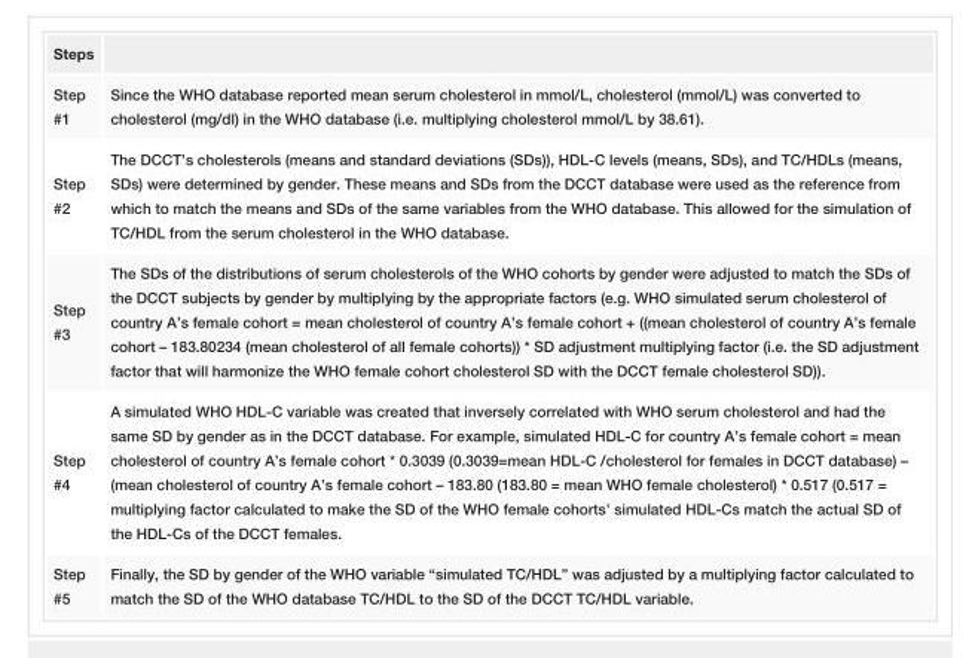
<table><tbody><tr><td colspan="2">Steps</td></tr><tr><td>Step #1</td><td>Since the WHO database reported mean serum cholesterol in mmol/L, cholesterol (mmol/L) was converted to cholesterol (mg/dl) in the WHO database (i.e. multiplying cholesterol mmol/L by 38.61).</td></tr><tr><td>Step #2</td><td>The DCCT’s cholesterols (means and standard deviations (SDs)), HDL-C levels (means, SDs), and TC/HDLs (means, SDs) were determined by gender. These means and SDs from the DCCT database were used as the reference from which to match the means and SDs of the same variables from the WHO database. This allowed for the simulation of TC/HDL from the serum cholesterol in the WHO database.</td></tr><tr><td>Step #3</td><td>The SDs of the distributions of serum cholesterols of the WHO cohorts by gender were adjusted to match the SDs of the DCCT subjects by gender by multiplying by the appropriate factors (e.g. WHO simulated serum cholesterol of country A’s female cohort = mean cholesterol of country A’s female cohort + ((mean cholesterol of country A’s female cohort – 183.80234 (mean cholesterol of all female cohorts)) * SD adjustment multiplying factor (i.e. the SD adjustment factor that will harmonize the WHO female cohort cholesterol SD with the DCCT female cholesterol SD)).</td></tr><tr><td>Step #4</td><td>A simulated WHO HDL-C variable was created that inversely correlated with WHO serum cholesterol and had the same SD by gender as in the DCCT database. For example, simulated HDL-C for country A’s female cohort = mean cholesterol of country A’s female cohort * 0.3039 (0.3039=mean HDL-C /cholesterol for females in DCCT database) – (mean cholesterol of country A’s female cohort – 183.80 (183.80 = mean WHO female cholesterol) * 0.517 (0.517 = multiplying factor calculated to make the SD of the WHO female cohorts’ simulated HDL-Cs match the actual SD of the HDL-Cs of the DCCT females.</td></tr><tr><td>Step #5</td><td>Finally, the SD by gender of the WHO variable “simulated TC/HDL” was adjusted by a multiplying factor calculated to match the SD of the WHO database TC/HDL to the SD of the DCCT TC/HDL variable.</td></tr></tbody></table>